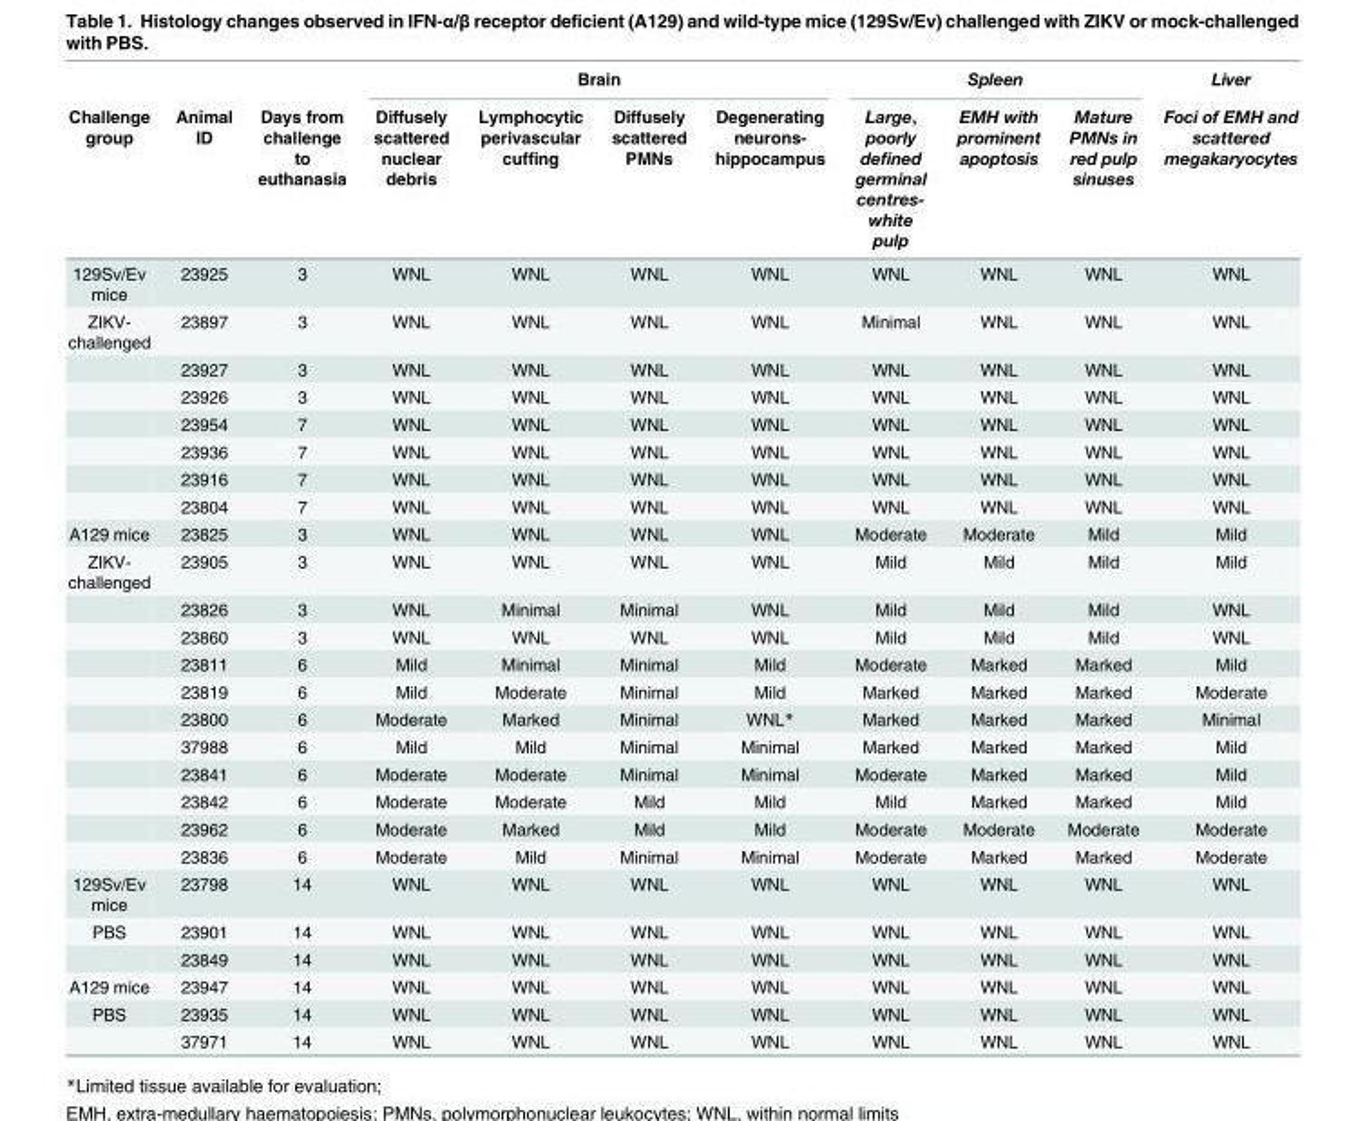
<table><thead><tr><td rowspan="2">Challenge group</td><td rowspan="2">Animal ID</td><td rowspan="2">Days from challenge to euthanasia</td><td colspan="4">Brain</td><td colspan="3">Spleen</td><td rowspan="2">Liver Foci of EMH and scattered megakaryocytes</td></tr><tr><td>Diffusely scattered nuclear debris</td><td>Lymphocytic perivascular cuffing</td><td>Diffusely scattered PMNs</td><td>Degenerating neurons- hippocampus</td><td>Large, poorly defined germinal centres- white pulp</td><td>EMH with prominent apoptosis</td><td>Mature PMNs in red pulp sinuses</td></tr></thead><tbody><tr><td>129Sv/Ev mice</td><td>23925</td><td>3</td><td>WNL</td><td>WNL</td><td>WNL</td><td>WNL</td><td>WNL</td><td>WNL</td><td>WNL</td><td>WNL</td></tr><tr><td rowspan="7">ZIKV- challenged</td><td>23897</td><td>3</td><td>WNL</td><td>WNL</td><td>WNL</td><td>WNL</td><td>Minimal</td><td>WNL</td><td>WNL</td><td>WNL</td></tr><tr><td>23927</td><td>3</td><td>WNL</td><td>WNL</td><td>WNL</td><td>WNL</td><td>WNL</td><td>WNL</td><td>WNL</td><td>WNL</td></tr><tr><td>23926</td><td>3</td><td>WNL</td><td>WNL</td><td>WNL</td><td>WNL</td><td>WNL</td><td>WNL</td><td>WNL</td><td>WNL</td></tr><tr><td>23954</td><td>7</td><td>WNL</td><td>WNL</td><td>WNL</td><td>WNL</td><td>WNL</td><td>WNL</td><td>WNL</td><td>WNL</td></tr><tr><td>23936</td><td>7</td><td>WNL</td><td>WNL</td><td>WNL</td><td>WNL</td><td>WNL</td><td>WNL</td><td>WNL</td><td>WNL</td></tr><tr><td>23916</td><td>7</td><td>WNL</td><td>WNL</td><td>WNL</td><td>WNL</td><td>WNL</td><td>WNL</td><td>WNL</td><td>WNL</td></tr><tr><td>23804</td><td>7</td><td>WNL</td><td>WNL</td><td>WNL</td><td>WNL</td><td>WNL</td><td>WNL</td><td>WNL</td><td>WNL</td></tr><tr><td>A129 mice</td><td>23825</td><td>3</td><td>WNL</td><td>WNL</td><td>WNL</td><td>WNL</td><td>Moderate</td><td>Moderate</td><td>Mild</td><td>Mild</td></tr><tr><td rowspan="11">ZIKV- challenged</td><td>23905</td><td>3</td><td>WNL</td><td>WNL</td><td>WNL</td><td>WNL</td><td>Mild</td><td>Mild</td><td>Mild</td><td>Mild</td></tr><tr><td>23826</td><td>3</td><td>WNL</td><td>Minimal</td><td>Minimal</td><td>WNL</td><td>Mild</td><td>Mild</td><td>Mild</td><td>WNL</td></tr><tr><td>23860</td><td>3</td><td>WNL</td><td>WNL</td><td>WNL</td><td>WNL</td><td>Mild</td><td>Mild</td><td>Mild</td><td>WNL</td></tr><tr><td>23811</td><td>6</td><td>Mild</td><td>Minimal</td><td>Minimal</td><td>Mild</td><td>Moderate</td><td>Marked</td><td>Marked</td><td>Mild</td></tr><tr><td>23819</td><td>6</td><td>Mild</td><td>Moderate</td><td>Minimal</td><td>Mild</td><td>Marked</td><td>Marked</td><td>Marked</td><td>Moderate</td></tr><tr><td>23800</td><td>6</td><td>Moderate</td><td>Marked</td><td>Minimal</td><td>WNL*</td><td>Marked</td><td>Marked</td><td>Marked</td><td>Minimal</td></tr><tr><td>37988</td><td>6</td><td>Mild</td><td>Mild</td><td>Minimal</td><td>Minimal</td><td>Marked</td><td>Marked</td><td>Marked</td><td>Mild</td></tr><tr><td>23841</td><td>6</td><td>Moderate</td><td>Moderate</td><td>Minimal</td><td>Minimal</td><td>Moderate</td><td>Marked</td><td>Marked</td><td>Mild</td></tr><tr><td>23842</td><td>6</td><td>Moderate</td><td>Moderate</td><td>Mild</td><td>Mild</td><td>Mild</td><td>Marked</td><td>Marked</td><td>Mild</td></tr><tr><td>23962</td><td>6</td><td>Moderate</td><td>Marked</td><td>Mild</td><td>Mild</td><td>Moderate</td><td>Moderate</td><td>Moderate</td><td>Moderate</td></tr><tr><td>23836</td><td>6</td><td>Moderate</td><td>Mild</td><td>Minimal</td><td>Minimal</td><td>Moderate</td><td>Marked</td><td>Marked</td><td>Moderate</td></tr><tr><td>129Sv/Ev mice</td><td>23798</td><td>14</td><td>WNL</td><td>WNL</td><td>WNL</td><td>WNL</td><td>WNL</td><td>WNL</td><td>WNL</td><td>WNL</td></tr><tr><td rowspan="2">PBS</td><td>23901</td><td>14</td><td>WNL</td><td>WNL</td><td>WNL</td><td>WNL</td><td>WNL</td><td>WNL</td><td>WNL</td><td>WNL</td></tr><tr><td>23849</td><td>14</td><td>WNL</td><td>WNL</td><td>WNL</td><td>WNL</td><td>WNL</td><td>WNL</td><td>WNL</td><td>WNL</td></tr><tr><td>A129 mice</td><td>23947</td><td>14</td><td>WNL</td><td>WNL</td><td>WNL</td><td>WNL</td><td>WNL</td><td>WNL</td><td>WNL</td><td>WNL</td></tr><tr><td rowspan="2">PBS</td><td>23935</td><td>14</td><td>WNL</td><td>WNL</td><td>WNL</td><td>WNL</td><td>WNL</td><td>WNL</td><td>WNL</td><td>WNL</td></tr><tr><td>37971</td><td>14</td><td>WNL</td><td>WNL</td><td>WNL</td><td>WNL</td><td>WNL</td><td>WNL</td><td>WNL</td><td>WNL</td></tr></tbody></table>